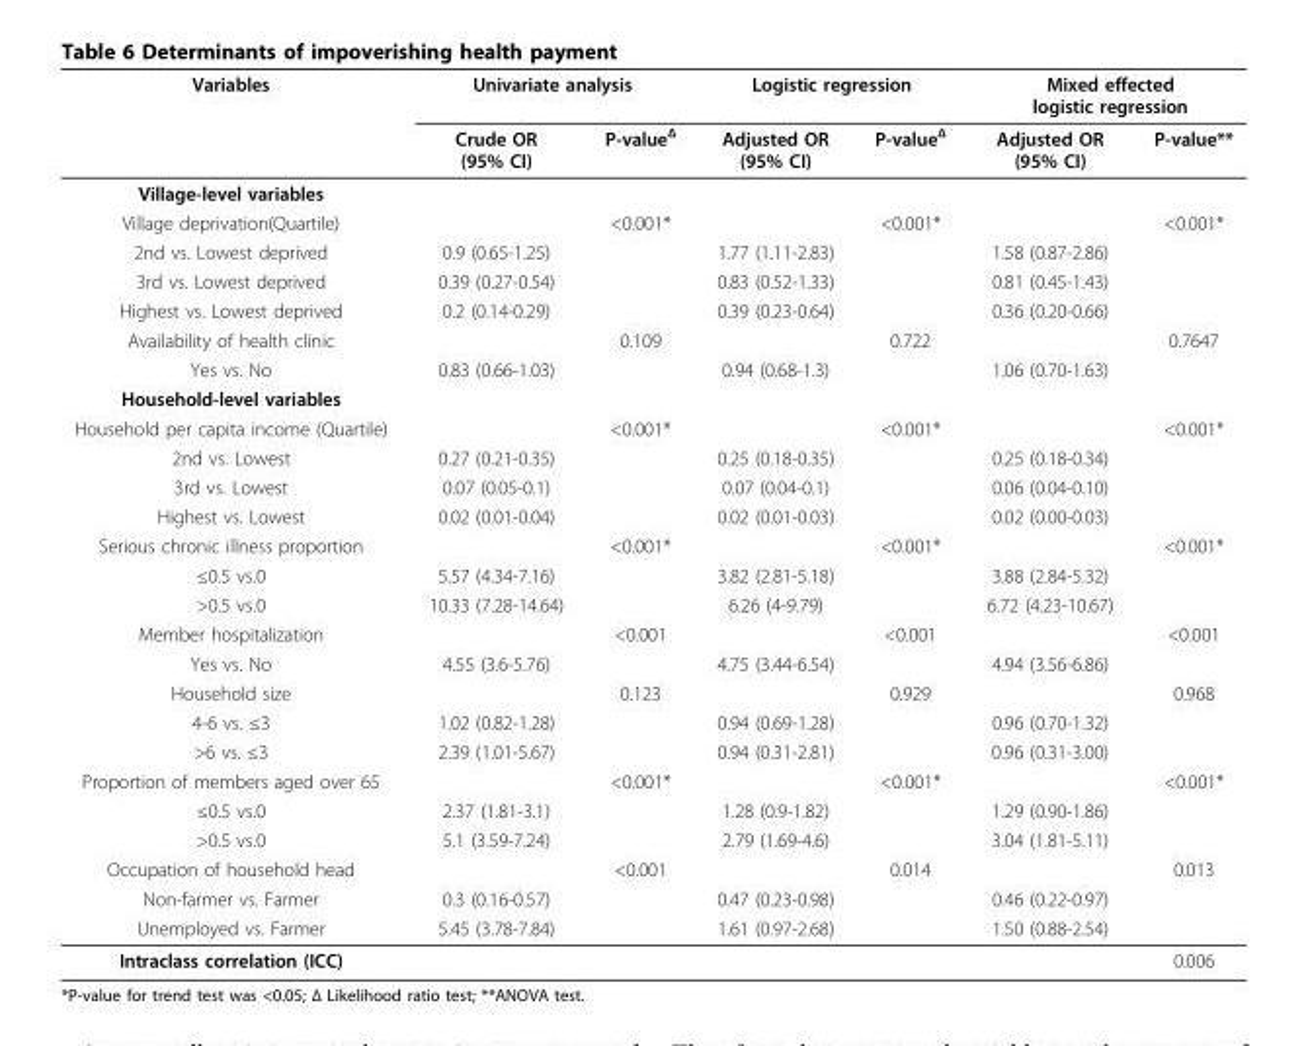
<table><thead><tr><td rowspan="2">Variables</td><td colspan="2">Univariate analysis</td><td colspan="2">Logistic regression</td><td colspan="2">Mixed effected logistic regression</td></tr><tr><td>Crude OR (95% CI)</td><td>P-value<sup>Δ</sup></td><td>Adjusted OR (95% CI)</td><td>P-value<sup>Δ</sup></td><td>Adjusted OR (95% CI)</td><td>P-value**</td></tr></thead><tbody><tr><td colspan="7">Village-level variables</td></tr><tr><td>Village deprivation(Quartile)</td><td></td><td>&lt;0.001*</td><td></td><td>&lt;0.001*</td><td></td><td>&lt;0.001*</td></tr><tr><td>2nd vs. Lowest deprived</td><td>0.9 (0.65-1.25)</td><td></td><td>1.77 (1.11-2.83)</td><td></td><td>1.58 (0.87-2.86)</td><td></td></tr><tr><td>3rd vs. Lowest deprived</td><td>0.39 (0.27-0.54)</td><td></td><td>0.83 (0.52-1.33)</td><td></td><td>0.81 (0.45-1.43)</td><td></td></tr><tr><td>Highest vs. Lowest deprived</td><td>0.2 (0.14-0.29)</td><td></td><td>0.39 (0.23-0.64)</td><td></td><td>0.36 (0.20-0.66)</td><td></td></tr><tr><td>Availability of health clinic</td><td></td><td>0.109</td><td></td><td>0.722</td><td></td><td>0.7647</td></tr><tr><td>Yes vs. No</td><td>0.83 (0.66-1.03)</td><td></td><td>0.94 (0.68-1.3)</td><td></td><td>1.06 (0.70-1.63)</td><td></td></tr><tr><td colspan="7">Household-level variables</td></tr><tr><td>Household per capita income (Quartile)</td><td></td><td>&lt;0.001*</td><td></td><td>&lt;0.001*</td><td></td><td>&lt;0.001*</td></tr><tr><td>2nd vs. Lowest</td><td>0.27 (0.21-0.35)</td><td></td><td>0.25 (0.18-0.35)</td><td></td><td>0.25 (0.18-0.34)</td><td></td></tr><tr><td>3rd vs. Lowest</td><td>0.07 (0.05-0.1)</td><td></td><td>0.07 (0.04-0.1)</td><td></td><td>0.06 (0.04-0.10)</td><td></td></tr><tr><td>Highest vs. Lowest</td><td>0.02 (0.01-0.04)</td><td></td><td>0.02 (0.01-0.03)</td><td></td><td>0.02 (0.00-0.03)</td><td></td></tr><tr><td>Serious chronic illness proportion</td><td></td><td>&lt;0.001*</td><td></td><td>&lt;0.001*</td><td></td><td>&lt;0.001*</td></tr><tr><td>≤0.5 vs.0</td><td>5.57 (4.34-7.16)</td><td></td><td>3.82 (2.81-5.18)</td><td></td><td>3.88 (2.84-5.32)</td><td></td></tr><tr><td>&gt;0.5 vs.0</td><td>10.33 (7.28-14.64)</td><td></td><td>6.26 (4-9.79)</td><td></td><td>6.72 (4.23-10.67)</td><td></td></tr><tr><td>Member hospitalization</td><td></td><td>&lt;0.001</td><td></td><td>&lt;0.001</td><td></td><td>&lt;0.001</td></tr><tr><td>Yes vs. No</td><td>4.55 (3.6-5.76)</td><td></td><td>4.75 (3.44-6.54)</td><td></td><td>4.94 (3.56-6.86)</td><td></td></tr><tr><td>Household size</td><td></td><td>0.123</td><td></td><td>0.929</td><td></td><td>0.968</td></tr><tr><td>4-6 vs. ≤3</td><td>1.02 (0.82-1.28)</td><td></td><td>0.94 (0.69-1.28)</td><td></td><td>0.96 (0.70-1.32)</td><td></td></tr><tr><td>&gt;6 vs. ≤3</td><td>2.39 (1.01-5.67)</td><td></td><td>0.94 (0.31-2.81)</td><td></td><td>0.96 (0.31-3.00)</td><td></td></tr><tr><td>Proportion of members aged over 65</td><td></td><td>&lt;0.001*</td><td></td><td>&lt;0.001*</td><td></td><td>&lt;0.001*</td></tr><tr><td>≤0.5 vs.0</td><td>2.37 (1.81-3.1)</td><td></td><td>1.28 (0.9-1.82)</td><td></td><td>1.29 (0.90-1.86)</td><td></td></tr><tr><td>&gt;0.5 vs.0</td><td>5.1 (3.59-7.24)</td><td></td><td>2.79 (1.69-4.6)</td><td></td><td>3.04 (1.81-5.11)</td><td></td></tr><tr><td>Occupation of household head</td><td></td><td>&lt;0.001</td><td></td><td>0.014</td><td></td><td>0.013</td></tr><tr><td>Non-farmer vs. Farmer</td><td>0.3 (0.16-0.57)</td><td></td><td>0.47 (0.23-0.98)</td><td></td><td>0.46 (0.22-0.97)</td><td></td></tr><tr><td>Unemployed vs. Farmer</td><td>5.45 (3.78-7.84)</td><td></td><td>1.61 (0.97-2.68)</td><td></td><td>1.50 (0.88-2.54)</td><td></td></tr><tr><td>Intraclass correlation (ICC)</td><td></td><td></td><td></td><td></td><td></td><td>0.006</td></tr></tbody></table>